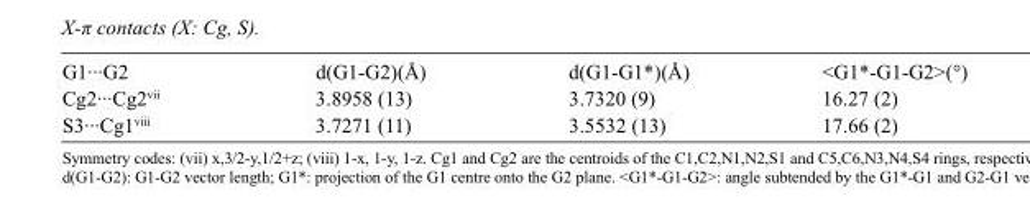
<table><tbody><tr><td>G1···G2</td><td>d(G1-G2)(Å)</td><td>d(G1-G1*)(Å)</td><td>&lt;G1*-G1-G2&gt;(°)</td></tr><tr><td>Cg2···Cg2<sup>vii</sup></td><td>3.8958 (13)</td><td>3.7320 (9)</td><td>16.27 (2)</td></tr><tr><td>S3···Cg1<sup>viii</sup></td><td>3.7271 (11)</td><td>3.5532 (13)</td><td>17.66 (2)</td></tr></tbody></table>